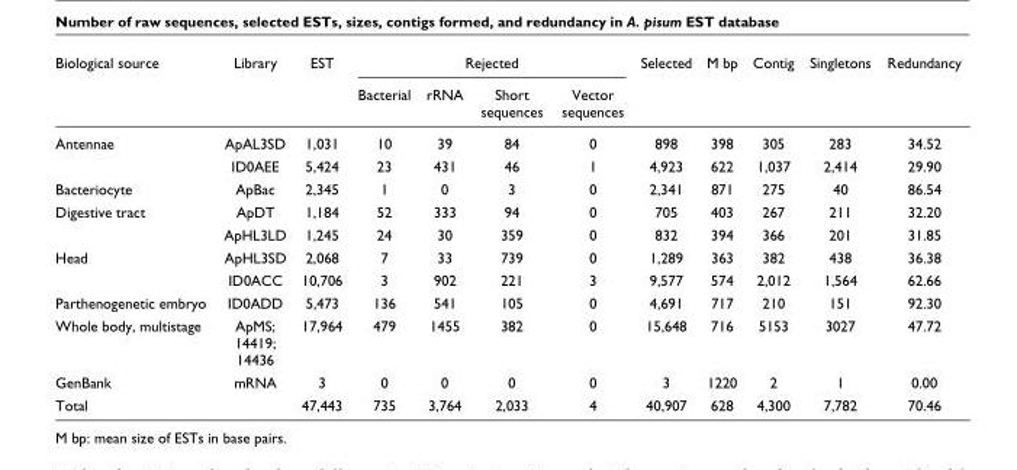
<table><thead><tr><td rowspan="2">Biological source</td><td rowspan="2">Library</td><td rowspan="2">EST</td><td colspan="4">Rejected</td><td rowspan="2">Selected</td><td rowspan="2">M bp</td><td rowspan="2">Contig</td><td rowspan="2">Singletons</td><td rowspan="2">Redundancy</td></tr><tr><td>Bacterial</td><td>rRNA</td><td>Short sequences</td><td>Vector sequences</td></tr></thead><tbody><tr><td rowspan="2">Antennae</td><td>ApAL3SD</td><td>1,031</td><td>10</td><td>39</td><td>84</td><td>0</td><td>898</td><td>398</td><td>305</td><td>283</td><td>34.52</td></tr><tr><td>ID0AEE</td><td>5,424</td><td>23</td><td>431</td><td>46</td><td>1</td><td>4,923</td><td>622</td><td>1,037</td><td>2,414</td><td>29.90</td></tr><tr><td>Bacteriocyte</td><td>ApBac</td><td>2,345</td><td>1</td><td>0</td><td>3</td><td>0</td><td>2,341</td><td>871</td><td>275</td><td>40</td><td>86.54</td></tr><tr><td rowspan="2">Digestive tract</td><td>ApDT</td><td>1,184</td><td>52</td><td>333</td><td>94</td><td>0</td><td>705</td><td>403</td><td>267</td><td>211</td><td>32.20</td></tr><tr><td>ApHL3LD</td><td>1,245</td><td>24</td><td>30</td><td>359</td><td>0</td><td>832</td><td>394</td><td>366</td><td>201</td><td>31.85</td></tr><tr><td rowspan="2">Head</td><td>ApHL3SD</td><td>2,068</td><td>7</td><td>33</td><td>739</td><td>0</td><td>1,289</td><td>363</td><td>382</td><td>438</td><td>36.38</td></tr><tr><td>ID0ACC</td><td>10,706</td><td>3</td><td>902</td><td>221</td><td>3</td><td>9,577</td><td>574</td><td>2,012</td><td>1,564</td><td>62.66</td></tr><tr><td>Parthenogenetic embryo</td><td>ID0ADD</td><td>5,473</td><td>136</td><td>541</td><td>105</td><td>0</td><td>4,691</td><td>717</td><td>210</td><td>151</td><td>92.30</td></tr><tr><td>Whole body, multistage</td><td>ApMS; 14419; 14436</td><td>17,964</td><td>479</td><td>1455</td><td>382</td><td>0</td><td>15,648</td><td>716</td><td>5153</td><td>3027</td><td>47.72</td></tr><tr><td>GenBank</td><td>mRNA</td><td>3</td><td>0</td><td>0</td><td>0</td><td>0</td><td>3</td><td>1220</td><td>2</td><td>1</td><td>0.00</td></tr><tr><td>Total</td><td></td><td>47,443</td><td>735</td><td>3,764</td><td>2,033</td><td>4</td><td>40,907</td><td>628</td><td>4,300</td><td>7,782</td><td>70.46</td></tr></tbody></table>